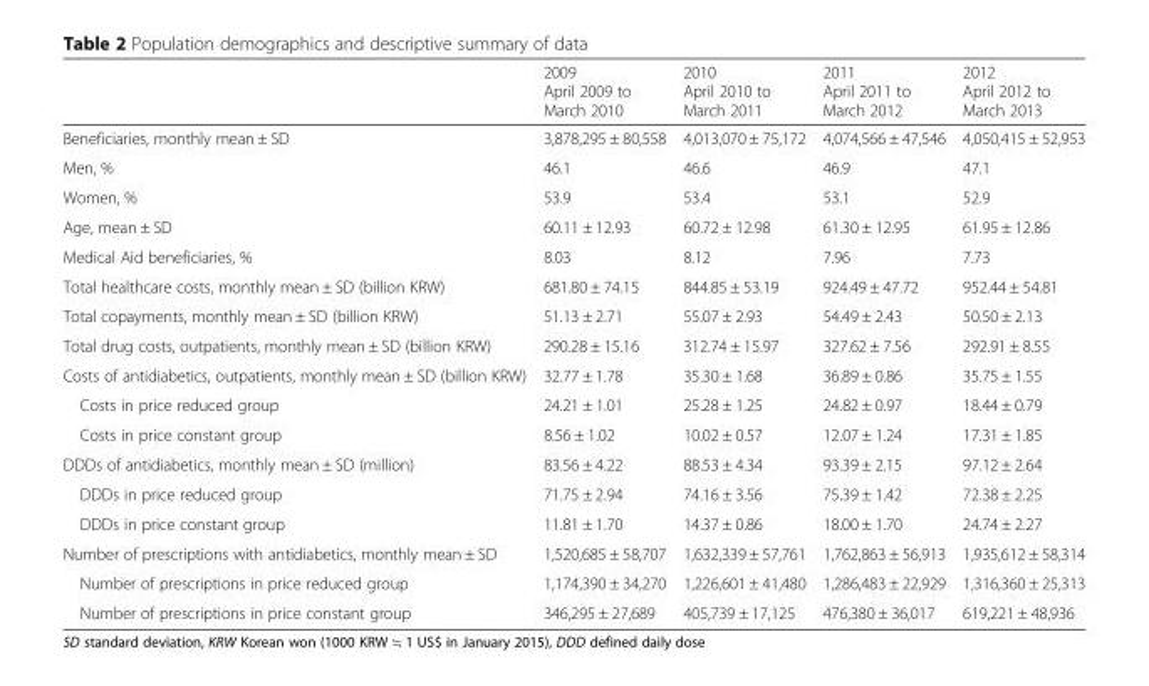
<table><thead><tr><td></td><td>2009 April 2009 to March 2010</td><td>2010 April 2010 to March 2011</td><td>2011 April 2011 to March 2012</td><td>2012 April 2012 to March 2013</td></tr></thead><tbody><tr><td>Beneficiaries, monthly mean ± SD</td><td>3,878,295 ± 80,558</td><td>4,013,070 ± 75,172</td><td>4,074,566 ± 47,546</td><td>4,050,415 ± 52,953</td></tr><tr><td>Men, %</td><td>46.1</td><td>46.6</td><td>46.9</td><td>47.1</td></tr><tr><td>Women, %</td><td>53.9</td><td>53.4</td><td>53.1</td><td>52.9</td></tr><tr><td>Age, mean ± SD</td><td>60.11 ± 12.93</td><td>60.72 ± 12.98</td><td>61.30 ± 12.95</td><td>61.95 ± 12.86</td></tr><tr><td>Medical Aid beneficiaries, %</td><td>8.03</td><td>8.12</td><td>7.96</td><td>7.73</td></tr><tr><td>Total healthcare costs, monthly mean ± SD (billion KRW)</td><td>681.80 ± 74.15</td><td>844.85 ± 53.19</td><td>924.49 ± 47.72</td><td>952.44 ± 54.81</td></tr><tr><td>Total copayments, monthly mean ± SD (billion KRW)</td><td>51.13 ± 2.71</td><td>55.07 ± 2.93</td><td>54.49 ± 2.43</td><td>50.50 ± 2.13</td></tr><tr><td>Total drug costs, outpatients, monthly mean ± SD (billion KRW)</td><td>290.28 ± 15.16</td><td>312.74 ± 15.97</td><td>327.62 ± 7.56</td><td>292.91 ± 8.55</td></tr><tr><td>Costs of antidiabetics, outpatients, monthly mean ± SD (billion KRW)</td><td>32.77 ± 1.78</td><td>35.30 ± 1.68</td><td>36.89 ± 0.86</td><td>35.75 ± 1.55</td></tr><tr><td>Costs in price reduced group</td><td>24.21 ± 1.01</td><td>25.28 ± 1.25</td><td>24.82 ± 0.97</td><td>18.44 ± 0.79</td></tr><tr><td>Costs in price constant group</td><td>8.56 ± 1.02</td><td>10.02 ± 0.57</td><td>12.07 ± 1.24</td><td>17.31 ± 1.85</td></tr><tr><td>DDDs of antidiabetics, monthly mean ± SD (million)</td><td>83.56 ± 4.22</td><td>88.53 ± 4.34</td><td>93.39 ± 2.15</td><td>97.12 ± 2.64</td></tr><tr><td>DDDs in price reduced group</td><td>71.75 ± 2.94</td><td>74.16 ± 3.56</td><td>75.39 ± 1.42</td><td>72.38 ± 2.25</td></tr><tr><td>DDDs in price constant group</td><td>11.81 ± 1.70</td><td>14.37 ± 0.86</td><td>18.00 ± 1.70</td><td>24.74 ± 2.27</td></tr><tr><td>Number of prescriptions with antidiabetics, monthly mean ± SD</td><td>1,520,685 ± 58,707</td><td>1,632,339 ± 57,761</td><td>1,762,863 ± 56,913</td><td>1,935,612 ± 58,314</td></tr><tr><td>Number of prescriptions in price reduced group</td><td>1,174,390 ± 34,270</td><td>1,226,601 ± 41,480</td><td>1,286,483 ± 22,929</td><td>1,316,360 ± 25,313</td></tr><tr><td>Number of prescriptions in price constant group</td><td>346,295 ± 27,689</td><td>405,739 ± 17,125</td><td>476,380 ± 36,017</td><td>619,221 ± 48,936</td></tr></tbody></table>